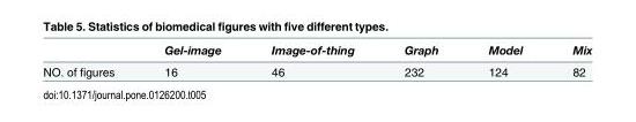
<table><thead><tr><td></td><td>Gel-image</td><td>Image-of-thing</td><td>Graph</td><td>Model</td><td>Mix</td></tr></thead><tbody><tr><td>NO. of figures</td><td>16</td><td>46</td><td>232</td><td>124</td><td>82</td></tr></tbody></table>